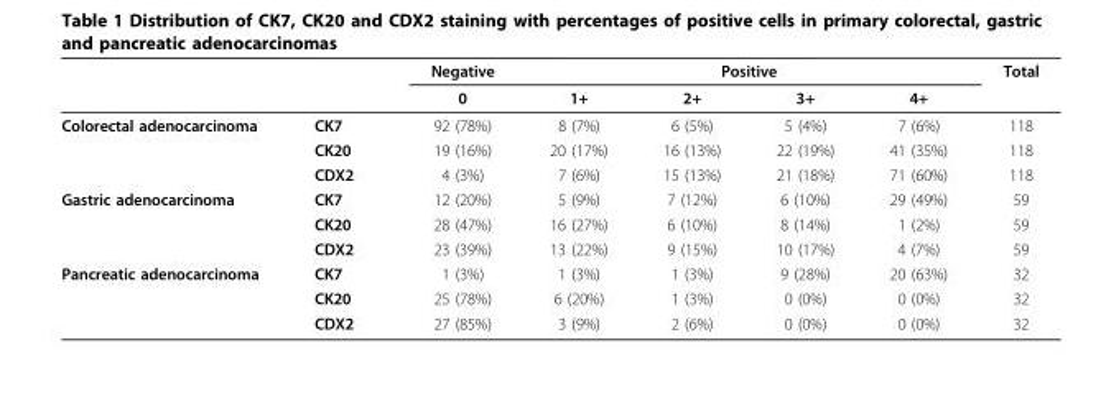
<table><thead><tr><td rowspan="2"></td><td rowspan="2"></td><td rowspan="2">Negative 0</td><td colspan="4">Positive</td><td rowspan="2">Total</td></tr><tr><td>1+</td><td>2+</td><td>3+</td><td>4+</td></tr></thead><tbody><tr><td rowspan="3">Colorectal adenocarcinoma</td><td>CK7</td><td>92 (78%)</td><td>8 (7%)</td><td>6 (5%)</td><td>5 (4%)</td><td>7 (6%)</td><td>118</td></tr><tr><td>CK20</td><td>19 (16%)</td><td>20 (17%)</td><td>16 (13%)</td><td>22 (19%)</td><td>41 (35%)</td><td>118</td></tr><tr><td>CDX2</td><td>4 (3%)</td><td>7 (6%)</td><td>15 (13%)</td><td>21 (18%)</td><td>71 (60%)</td><td>118</td></tr><tr><td rowspan="3">Gastric adenocarcinoma</td><td>CK7</td><td>12 (20%)</td><td>5 (9%)</td><td>7 (12%)</td><td>6 (10%)</td><td>29 (49%)</td><td>59</td></tr><tr><td>CK20</td><td>28 (47%)</td><td>16 (27%)</td><td>6 (10%)</td><td>8 (14%)</td><td>1 (2%)</td><td>59</td></tr><tr><td>CDX2</td><td>23 (39%)</td><td>13 (22%)</td><td>9 (15%)</td><td>10 (17%)</td><td>4 (7%)</td><td>59</td></tr><tr><td rowspan="3">Pancreatic adenocarcinoma</td><td>CK7</td><td>1 (3%)</td><td>1 (3%)</td><td>1 (3%)</td><td>9 (28%)</td><td>20 (63%)</td><td>32</td></tr><tr><td>CK20</td><td>25 (78%)</td><td>6 (20%)</td><td>1 (3%)</td><td>0 (0%)</td><td>0 (0%)</td><td>32</td></tr><tr><td>CDX2</td><td>27 (85%)</td><td>3 (9%)</td><td>2 (6%)</td><td>0 (0%)</td><td>0 (0%)</td><td>32</td></tr></tbody></table>